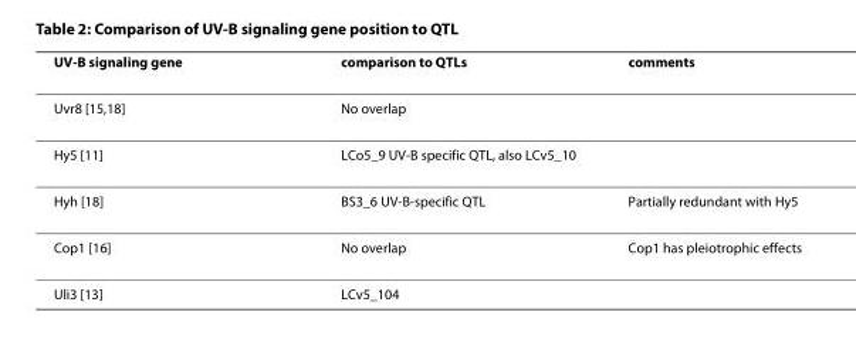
<table><thead><tr><td>UV-B signaling gene</td><td>comparison to QTLs</td><td>comments</td></tr></thead><tbody><tr><td>Uvr8 [15,18]</td><td>No overlap</td><td></td></tr><tr><td>Hy5 [11]</td><td>LCo5_9 UV-B specific QTL, also LCv5_10</td><td></td></tr><tr><td>Hyh [18]</td><td>BS3_6 UV-B-specific QTL</td><td>Partially redundant with Hy5</td></tr><tr><td>Cop1 [16]</td><td>No overlap</td><td>Cop1 has pleiotrophic effects</td></tr><tr><td>Uli3 [13]</td><td>LCv5_104</td><td></td></tr></tbody></table>